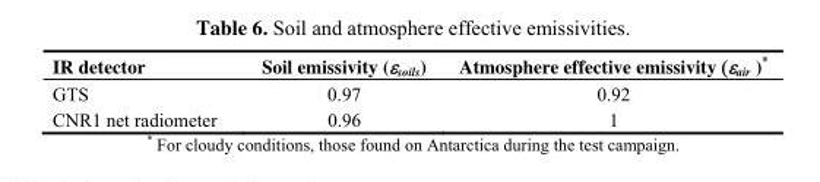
<table><thead><tr><td>IR detector</td><td>Soil emissivity (ε<sub>soils</sub>)</td><td>Atmosphere effective emissivityair )*</td></tr></thead><tbody><tr><td>GTS</td><td>0.97</td><td>0.92</td></tr><tr><td>CNR1 net radiometer</td><td>0.96</td><td>1</td></tr></tbody></table>